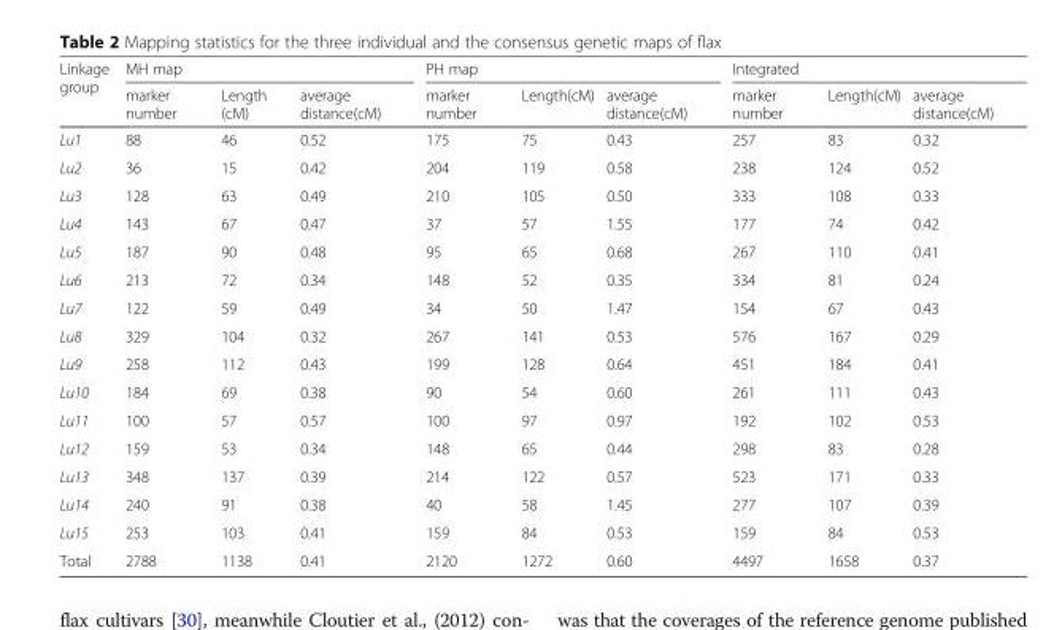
<table><thead><tr><td rowspan="2">Linkage group</td><td colspan="3">MH map</td><td colspan="3">PH map</td><td colspan="3">Integrated</td></tr><tr><td>marker number</td><td>Length (cM)</td><td>average distance(cM)</td><td>marker number</td><td>Length(cM)</td><td>average distance(cM)</td><td>marker number</td><td>Length(cM)</td><td>average distance(cM)</td></tr></thead><tbody><tr><td>Lu1</td><td>88</td><td>46</td><td>0.52</td><td>175</td><td>75</td><td>0.43</td><td>257</td><td>83</td><td>0.32</td></tr><tr><td>Lu2</td><td>36</td><td>15</td><td>0.42</td><td>204</td><td>119</td><td>0.58</td><td>238</td><td>124</td><td>0.52</td></tr><tr><td>Lu3</td><td>128</td><td>63</td><td>0.49</td><td>210</td><td>105</td><td>0.50</td><td>333</td><td>108</td><td>0.33</td></tr><tr><td>Lu4</td><td>143</td><td>67</td><td>0.47</td><td>37</td><td>57</td><td>1.55</td><td>177</td><td>74</td><td>0.42</td></tr><tr><td>Lu5</td><td>187</td><td>90</td><td>0.48</td><td>95</td><td>65</td><td>0.68</td><td>267</td><td>110</td><td>0.41</td></tr><tr><td>Lu6</td><td>213</td><td>72</td><td>0.34</td><td>148</td><td>52</td><td>0.35</td><td>334</td><td>81</td><td>0.24</td></tr><tr><td>Lu7</td><td>122</td><td>59</td><td>0.49</td><td>34</td><td>50</td><td>1.47</td><td>154</td><td>67</td><td>0.43</td></tr><tr><td>Lu8</td><td>329</td><td>104</td><td>0.32</td><td>267</td><td>141</td><td>0.53</td><td>576</td><td>167</td><td>0.29</td></tr><tr><td>Lu9</td><td>258</td><td>112</td><td>0.43</td><td>199</td><td>128</td><td>0.64</td><td>451</td><td>184</td><td>0.41</td></tr><tr><td>Lu10</td><td>184</td><td>69</td><td>0.38</td><td>90</td><td>54</td><td>0.60</td><td>261</td><td>111</td><td>0.43</td></tr><tr><td>Lu11</td><td>100</td><td>57</td><td>0.57</td><td>100</td><td>97</td><td>0.97</td><td>192</td><td>102</td><td>0.53</td></tr><tr><td>Lu12</td><td>159</td><td>53</td><td>0.34</td><td>148</td><td>65</td><td>0.44</td><td>298</td><td>83</td><td>0.28</td></tr><tr><td>Lu13</td><td>348</td><td>137</td><td>0.39</td><td>214</td><td>122</td><td>0.57</td><td>523</td><td>171</td><td>0.33</td></tr><tr><td>Lu14</td><td>240</td><td>91</td><td>0.38</td><td>40</td><td>58</td><td>1.45</td><td>277</td><td>107</td><td>0.39</td></tr><tr><td>Lu15</td><td>253</td><td>103</td><td>0.41</td><td>159</td><td>84</td><td>0.53</td><td>159</td><td>84</td><td>0.53</td></tr><tr><td>Total</td><td>2788</td><td>1138</td><td>0.41</td><td>2120</td><td>1272</td><td>0.60</td><td>4497</td><td>1658</td><td>0.37</td></tr></tbody></table>